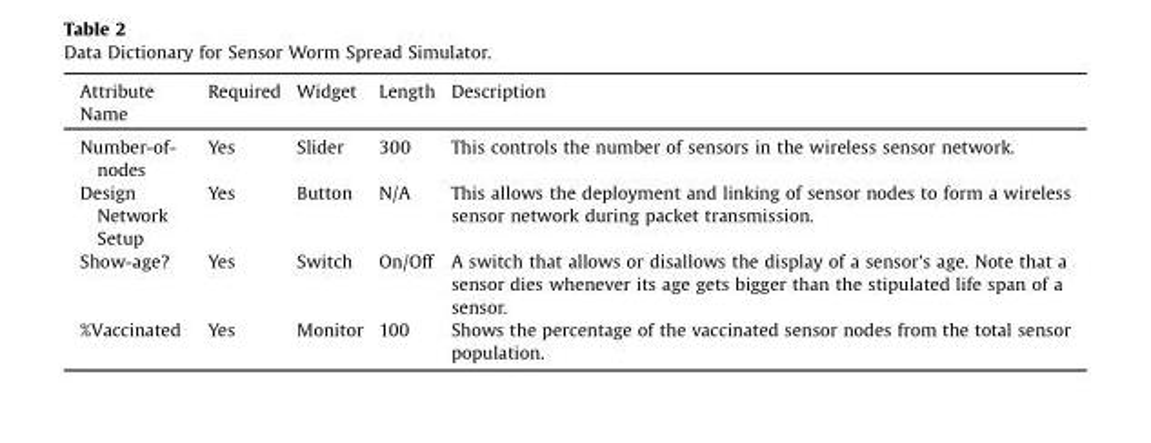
<table><thead><tr><td>Attribute Name</td><td>Required</td><td>Widget</td><td>Length</td><td>Description</td></tr></thead><tbody><tr><td>Number-of- nodes</td><td>Yes</td><td>Slider</td><td>300</td><td>This controls the number of sensors in the wireless sensor network.</td></tr><tr><td>Design Network Setup</td><td>Yes</td><td>Button</td><td>N/A</td><td>This allows the deployment and linking of sensor nodes to form a wireless sensor network during packet transmission.</td></tr><tr><td>Show-age?</td><td>Yes</td><td>Switch</td><td>On/Off</td><td>A switch that allows or disallows the display of a sensor’s age. Note that a sensor dies whenever its age gets bigger than the stipulated life span of a sensor.</td></tr><tr><td>%Vaccinated</td><td>Yes</td><td>Monitor</td><td>100</td><td>Shows the percentage of the vaccinated sensor nodes from the total sensor population.</td></tr></tbody></table>